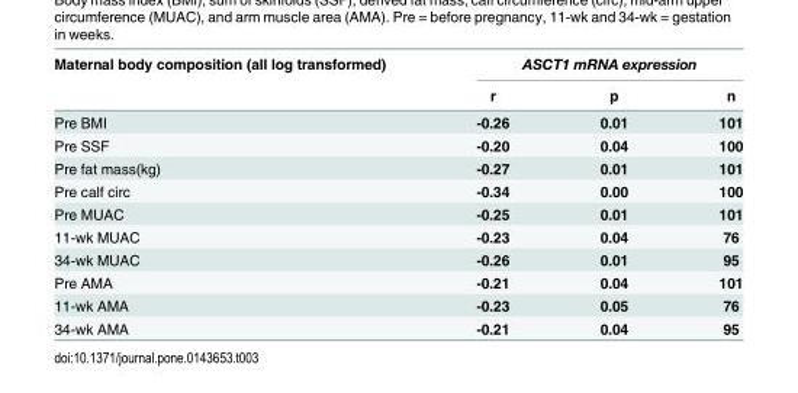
<table><thead><tr><td rowspan="2">Maternal body composition (all log transformed)</td><td colspan="3">ASCT1 mRNA expression</td></tr><tr><td>r</td><td>p</td><td>n</td></tr></thead><tbody><tr><td>Pre BMI</td><td>-0.26</td><td>0.01</td><td>101</td></tr><tr><td>Pre SSF</td><td>-0.20</td><td>0.04</td><td>100</td></tr><tr><td>Pre fat mass(kg)</td><td>-0.27</td><td>0.01</td><td>101</td></tr><tr><td>Pre calf circ</td><td>-0.34</td><td>0.00</td><td>100</td></tr><tr><td>Pre MUAC</td><td>-0.25</td><td>0.01</td><td>101</td></tr><tr><td>11-wk MUAC</td><td>-0.23</td><td>0.04</td><td>76</td></tr><tr><td>34-wk MUAC</td><td>-0.26</td><td>0.01</td><td>95</td></tr><tr><td>Pre AMA</td><td>-0.21</td><td>0.04</td><td>101</td></tr><tr><td>11-wk AMA</td><td>-0.23</td><td>0.05</td><td>76</td></tr><tr><td>34-wk AMA</td><td>-0.21</td><td>0.04</td><td>95</td></tr></tbody></table>